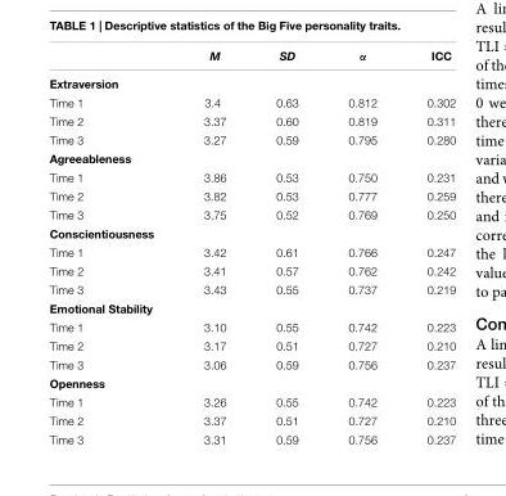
<table><thead><tr><td></td><td>M</td><td>SD</td><td>α</td><td>ICC</td></tr></thead><tbody><tr><td colspan="5">Extraversion</td></tr><tr><td>Time 1</td><td>3.4</td><td>0.63</td><td>0.812</td><td>0.302</td></tr><tr><td>Time 2</td><td>3.37</td><td>0.60</td><td>0.819</td><td>0.311</td></tr><tr><td>Time 3</td><td>3.27</td><td>0.59</td><td>0.795</td><td>0.280</td></tr><tr><td colspan="5">Agreeableness</td></tr><tr><td>Time 1</td><td>3.86</td><td>0.53</td><td>0.750</td><td>0.231</td></tr><tr><td>Time 2</td><td>3.82</td><td>0.53</td><td>0.777</td><td>0.259</td></tr><tr><td>Time 3</td><td>3.75</td><td>0.52</td><td>0.769</td><td>0.250</td></tr><tr><td colspan="5">Conscientiousness</td></tr><tr><td>Time 1</td><td>3.42</td><td>0.61</td><td>0.766</td><td>0.247</td></tr><tr><td>Time 2</td><td>3.41</td><td>0.57</td><td>0.762</td><td>0.242</td></tr><tr><td>Time 3</td><td>3.43</td><td>0.55</td><td>0.737</td><td>0.219</td></tr><tr><td colspan="5">Emotional Stability</td></tr><tr><td>Time 1</td><td>3.10</td><td>0.55</td><td>0.742</td><td>0.223</td></tr><tr><td>Time 2</td><td>3.17</td><td>0.51</td><td>0.727</td><td>0.210</td></tr><tr><td>Time 3</td><td>3.06</td><td>0.59</td><td>0.756</td><td>0.237</td></tr><tr><td colspan="5">Openness</td></tr><tr><td>Time 1</td><td>3.26</td><td>0.55</td><td>0.742</td><td>0.223</td></tr><tr><td>Time 2</td><td>3.37</td><td>0.51</td><td>0.727</td><td>0.210</td></tr><tr><td>Time 3</td><td>3.31</td><td>0.59</td><td>0.756</td><td>0.237</td></tr></tbody></table>